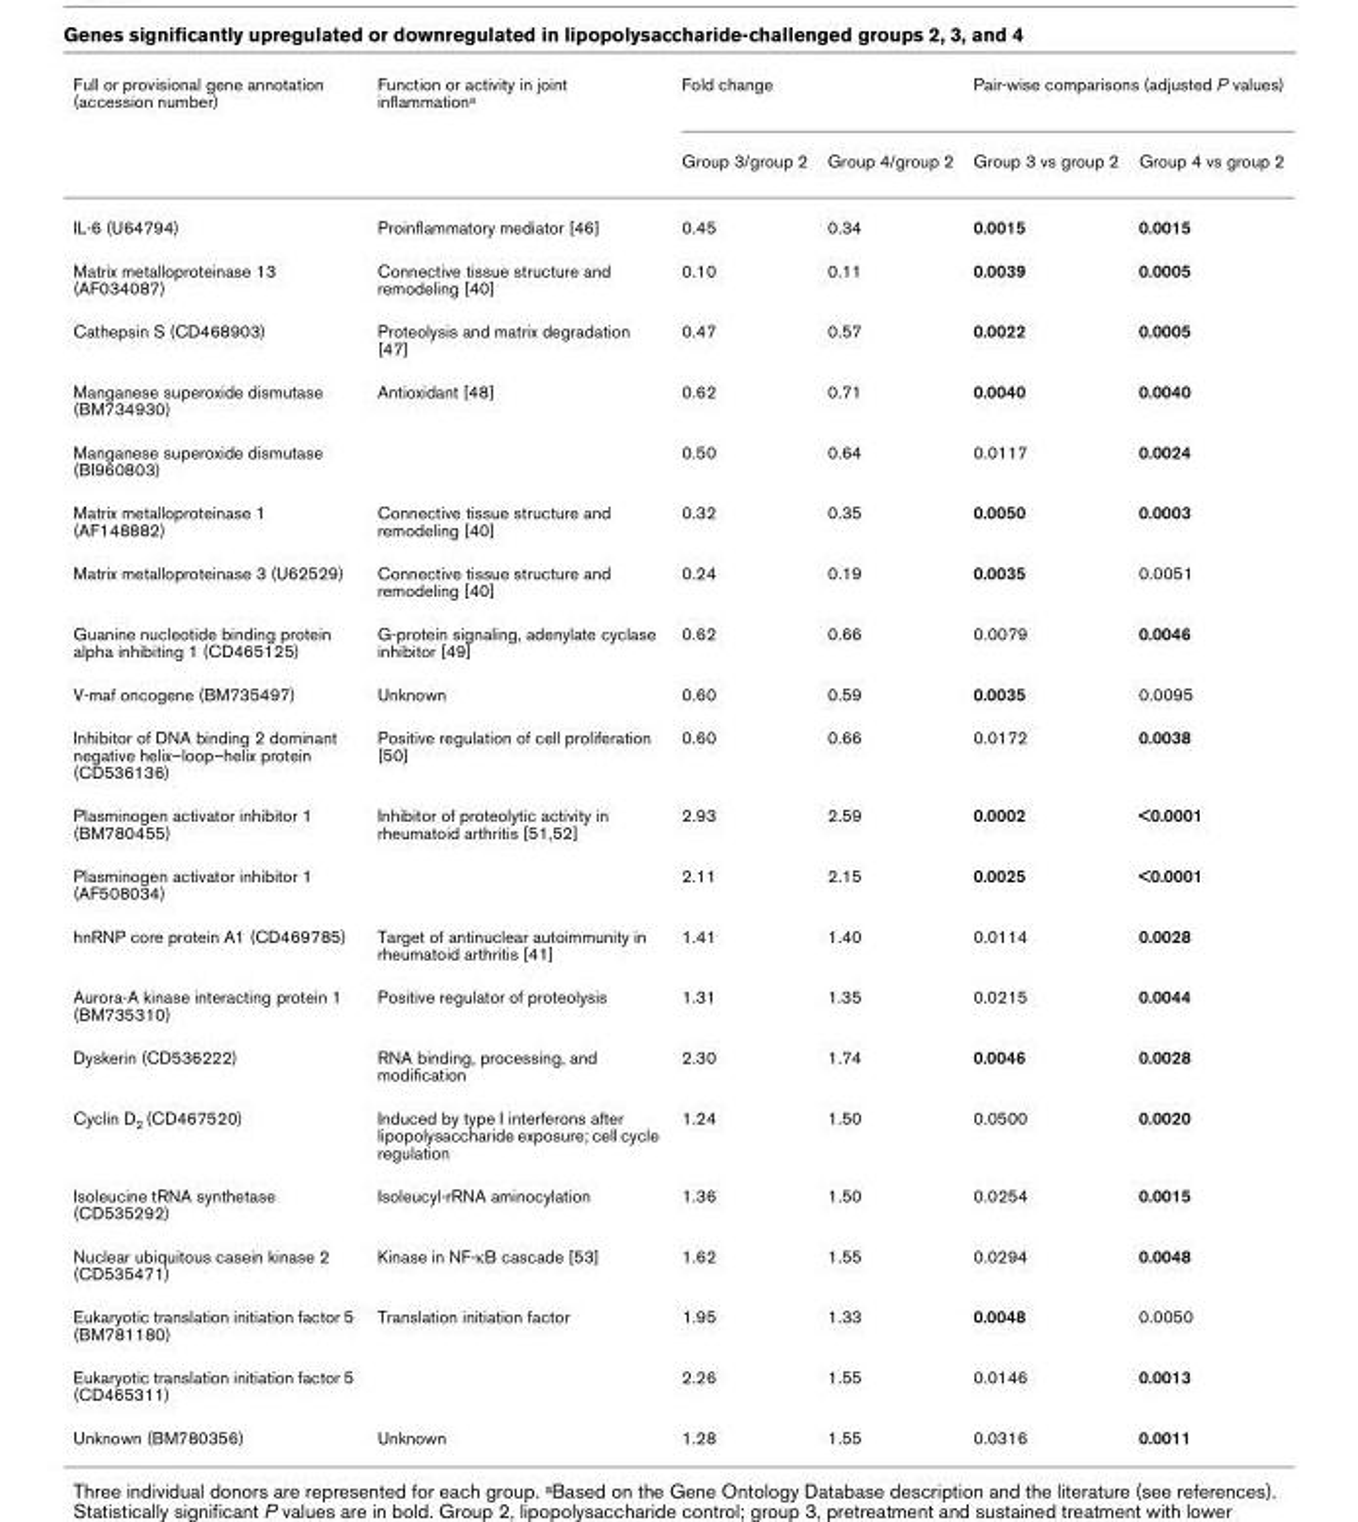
<table><thead><tr><td rowspan="2">Full or provisional gene annotation (accession number)</td><td rowspan="2">Function or activity in joint inflammationa</td><td colspan="2">Fold change</td><td colspan="2">Pair-wise comparisons (adjusted P values)</td></tr><tr><td>Group 3/group 2</td><td>Group 4/group 2</td><td>Group 3 vs group 2</td><td>Group 4 vs group 2</td></tr></thead><tbody><tr><td>IL-6 (U64794)</td><td>Proinflammatory mediator [46]</td><td>0.45</td><td>0.34</td><td>0.0015</td><td>0.0015</td></tr><tr><td>Matrix metalloproteinase 13 (AF034087)</td><td>Connective tissue structure and remodeling [40]</td><td>0.10</td><td>0.11</td><td>0.0039</td><td>0.0005</td></tr><tr><td>Cathepsin S (CD468903)</td><td>Proteolysis and matrix degradation [47]</td><td>0.47</td><td>0.57</td><td>0.0022</td><td>0.0005</td></tr><tr><td>Manganese superoxide dismutase (BM734930)</td><td>Antioxidant [48]</td><td>0.62</td><td>0.71</td><td>0.0040</td><td>0.0040</td></tr><tr><td>Manganese superoxide dismutase (BI960803)</td><td></td><td>0.50</td><td>0.64</td><td>0.0117</td><td>0.0024</td></tr><tr><td>Matrix metalloproteinase 1 (AF148882)</td><td>Connective tissue structure and remodeling [40]</td><td>0.32</td><td>0.35</td><td>0.0050</td><td>0.0003</td></tr><tr><td>Matrix metalloproteinase 3 (U62529)</td><td>Connective tissue structure and remodeling [40]</td><td>0.24</td><td>0.19</td><td>0.0035</td><td>0.0051</td></tr><tr><td>Guanine nucleotide binding protein alpha inhibiting 1 (CD465125)</td><td>G-protein signaling, adenylate cyclase inhibitor [49]</td><td>0.62</td><td>0.66</td><td>0.0079</td><td>0.0046</td></tr><tr><td>V-maf oncogene (BM735497)</td><td>Unknown</td><td>0.60</td><td>0.59</td><td>0.0035</td><td>0.0095</td></tr><tr><td>Inhibitor of DNA binding 2 dominant negative helix–loop–helix protein (CD536136)</td><td>Positive regulation of cell proliferation [50]</td><td>0.60</td><td>0.66</td><td>0.0172</td><td>0.0038</td></tr><tr><td>Plasminogen activator inhibitor 1 (BM780455)</td><td>Inhibitor of proteolytic activity in rheumatoid arthritis [51,52]</td><td>2.93</td><td>2.59</td><td>0.0002</td><td>&lt;0.0001</td></tr><tr><td>Plasminogen activator inhibitor 1 (AF508034)</td><td></td><td>2.11</td><td>2.15</td><td>0.0025</td><td>&lt;0.0001</td></tr><tr><td>hnRNP core protein A1 (CD469785)</td><td>Target of antinuclear autoimmunity in rheumatoid arthritis [41]</td><td>1.41</td><td>1.40</td><td>0.0114</td><td>0.0028</td></tr><tr><td>Aurora-A kinase interacting protein 1 (BM735310)</td><td>Positive regulator of proteolysis</td><td>1.31</td><td>1.35</td><td>0.0215</td><td>0.0044</td></tr><tr><td>Dyskerin (CD536222)</td><td>RNA binding, processing, and modification</td><td>2.30</td><td>1.74</td><td>0.0046</td><td>0.0028</td></tr><tr><td>Cyclin D2 (CD467520)</td><td>Induced by type I interferons after lipopolysaccharide exposure; cell cycle regulation</td><td>1.24</td><td>1.50</td><td>0.0500</td><td>0.0020</td></tr><tr><td>Isoleucine tRNA synthetase (CD535292)</td><td>Isoleucyl-rRNA aminocylation</td><td>1.36</td><td>1.50</td><td>0.0254</td><td>0.0015</td></tr><tr><td>Nuclear ubiquitous casein kinase 2 (CD535471)</td><td>Kinase in NF-κB cascade [53]</td><td>1.62</td><td>1.55</td><td>0.0294</td><td>0.0048</td></tr><tr><td>Eukaryotic translation initiation factor 5 (BM781180)</td><td>Translation initiation factor</td><td>1.95</td><td>1.33</td><td>0.0048</td><td>0.0050</td></tr><tr><td>Eukaryotic translation initiation factor 5 (CD465311)</td><td></td><td>2.26</td><td>1.55</td><td>0.0146</td><td>0.0013</td></tr><tr><td>Unknown (BM780356)</td><td>Unknown</td><td>1.28</td><td>1.55</td><td>0.0316</td><td>0.0011</td></tr></tbody></table>